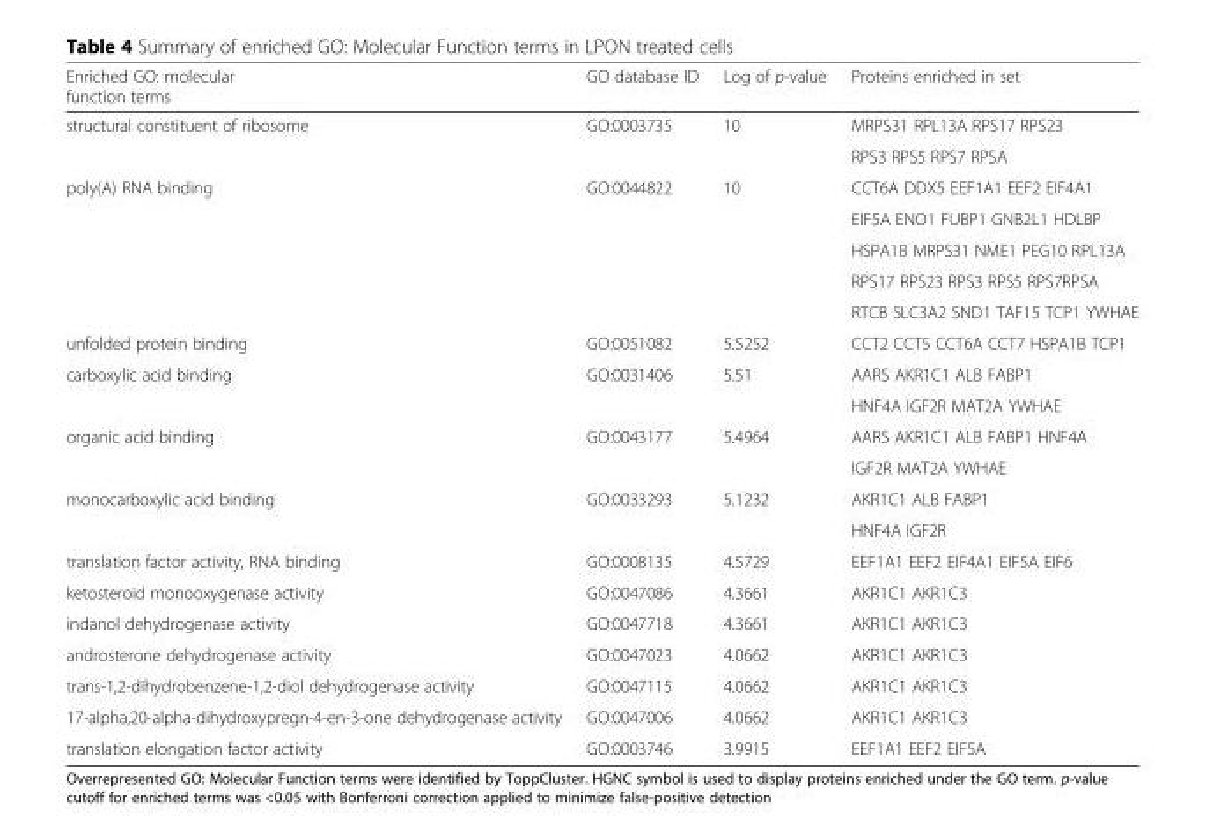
<table><thead><tr><td>Enriched GO: molecular function terms</td><td>GO database ID</td><td>Log of p-value</td><td>Proteins enriched in set</td></tr></thead><tbody><tr><td rowspan="2">structural constituent of ribosome</td><td rowspan="2">GO:0003735</td><td rowspan="2">10</td><td>MRPS31 RPL13A RPS17 RPS23</td></tr><tr><td>RPS3 RPS5 RPS7 RPSA</td></tr><tr><td rowspan="5">poly(A) RNA binding</td><td rowspan="5">GO:0044822</td><td rowspan="5">10</td><td>CCT6A DDX5 EEF1A1 EEF2 EIF4A1</td></tr><tr><td>EIF5A ENO1 FUBP1 GNB2L1 HDLBP</td></tr><tr><td>HSPA1B MRPS31 NME1 PEG10 RPL13A</td></tr><tr><td>RPS17 RPS23 RPS3 RPS5 RPS7RPSA</td></tr><tr><td>RTCB SLC3A2 SND1 TAF15 TCP1 YWHAE</td></tr><tr><td>unfolded protein binding</td><td>GO:0051082</td><td>5.5252</td><td>CCT2 CCT5 CCT6A CCT7 HSPA1B TCP1</td></tr><tr><td rowspan="2">carboxylic acid binding</td><td rowspan="2">GO:0031406</td><td rowspan="2">5.51</td><td>AARS AKR1C1 ALB FABP1</td></tr><tr><td>HNF4A IGF2R MAT2A YWHAE</td></tr><tr><td rowspan="2">organic acid binding</td><td rowspan="2">GO:0043177</td><td rowspan="2">5.4964</td><td>AARS AKR1C1 ALB FABP1 HNF4A</td></tr><tr><td>IGF2R MAT2A YWHAE</td></tr><tr><td rowspan="2">monocarboxylic acid binding</td><td rowspan="2">GO:0033293</td><td rowspan="2">5.1232</td><td>AKR1C1 ALB FABP1</td></tr><tr><td>HNF4A IGF2R</td></tr><tr><td>translation factor activity, RNA binding</td><td>GO:0008135</td><td>4.5729</td><td>EEF1A1 EEF2 EIF4A1 EIF5A EIF6</td></tr><tr><td>ketosteroid monooxygenase activity</td><td>GO:0047086</td><td>4.3661</td><td>AKR1C1 AKR1C3</td></tr><tr><td>indanol dehydrogenase activity</td><td>GO:0047718</td><td>4.3661</td><td>AKR1C1 AKR1C3</td></tr><tr><td>androsterone dehydrogenase activity</td><td>GO:0047023</td><td>4.0662</td><td>AKR1C1 AKR1C3</td></tr><tr><td>trans-1,2-dihydrobenzene-1,2-diol dehydrogenase activity</td><td>GO:0047115</td><td>4.0662</td><td>AKR1C1 AKR1C3</td></tr><tr><td>17-alpha,20-alpha-dihydroxypregn-4-en-3-one dehydrogenase activity</td><td>GO:0047006</td><td>4.0662</td><td>AKR1C1 AKR1C3</td></tr><tr><td>translation elongation factor activity</td><td>GO:0003746</td><td>3.9915</td><td>EEF1A1 EEF2 EIF5A</td></tr></tbody></table>